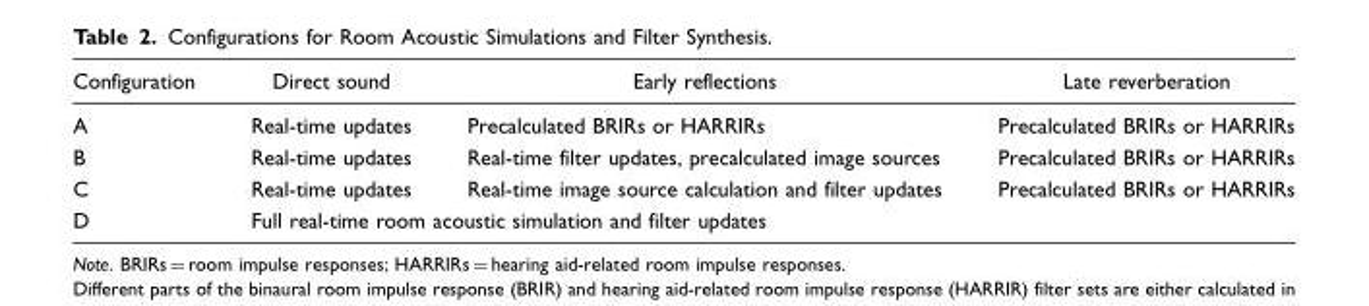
<table><thead><tr><td>Configuration</td><td>Direct sound</td><td>Early reflections</td><td>Late reverberation</td></tr></thead><tbody><tr><td>A</td><td>Real-time updates</td><td>Precalculated BRIRs or HARRIRs</td><td>Precalculated BRIRs or HARRIRs</td></tr><tr><td>B</td><td>Real-time updates</td><td>Real-time filter updates, precalculated image sources</td><td>Precalculated BRIRs or HARRIRs</td></tr><tr><td>C</td><td>Real-time updates</td><td>Real-time image source calculation and filter updates</td><td>Precalculated BRIRs or HARRIRs</td></tr><tr><td>D</td><td colspan="3">Full real-time room acoustic simulation and filter updates</td></tr></tbody></table>